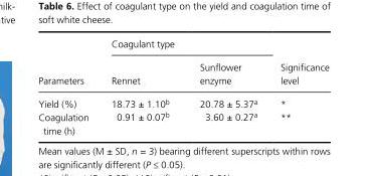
<table><thead><tr><td rowspan="2">Parameters</td><td colspan="2">Coagulant type</td><td rowspan="2">Significance level</td></tr><tr><td>Rennet</td><td>Sunflower enzyme</td></tr></thead><tbody><tr><td>Yield (%)</td><td>18.73 ± 1.10<sup>b</sup></td><td>20.78 ± 5.37<sup>a</sup></td><td>*</td></tr><tr><td>Coagulation time (h)</td><td>0.91 ± 0.07<sup>b</sup></td><td>3.60 ± 0.27<sup>a</sup></td><td>**</td></tr></tbody></table>